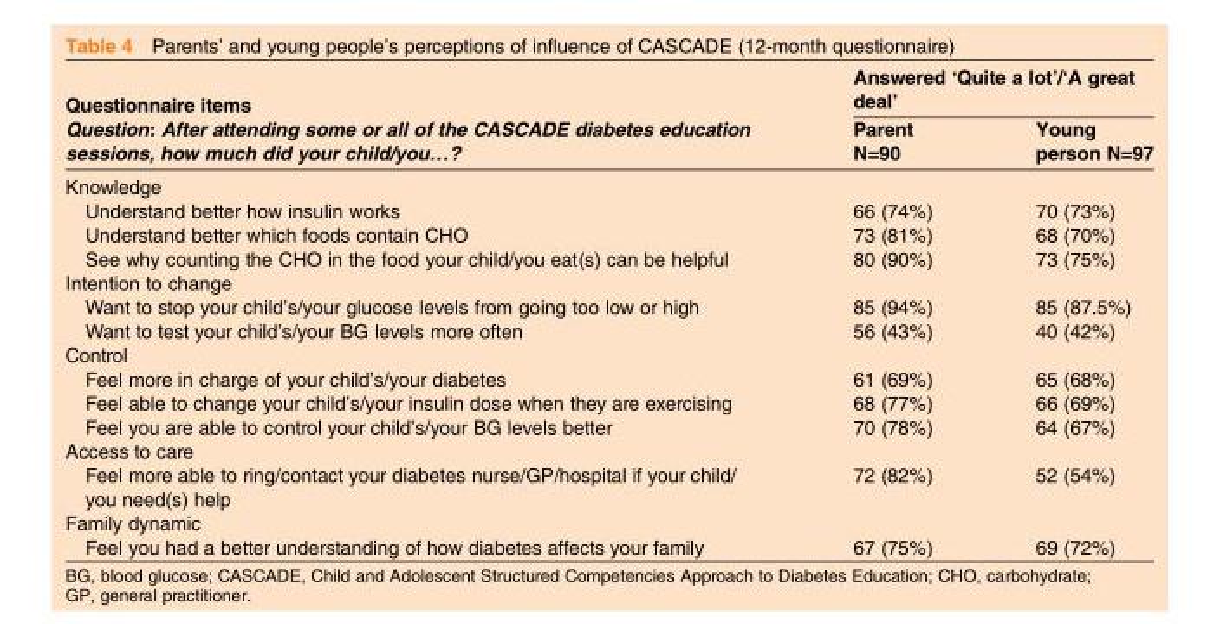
<table><thead><tr><td rowspan="2">Questionnaire items Question: After attending some or all of the CASCADE diabetes education sessions, how much did your child/you…?</td><td colspan="2">Answered ‘Quite a lot’/‘A great deal’</td></tr><tr><td>Parent N=90</td><td>Young person N=97</td></tr></thead><tbody><tr><td colspan="3">Knowledge</td></tr><tr><td>Understand better how insulin works</td><td>66 (74%)</td><td>70 (73%)</td></tr><tr><td>Understand better which foods contain CHO</td><td>73 (81%)</td><td>68 (70%)</td></tr><tr><td>See why counting the CHO in the food your child/you eat(s) can be helpful</td><td>80 (90%)</td><td>73 (75%)</td></tr><tr><td colspan="3">Intention to change</td></tr><tr><td>Want to stop your child’s/your glucose levels from going too low or high</td><td>85 (94%)</td><td>85 (87.5%)</td></tr><tr><td>Want to test your child’s/your BG levels more often</td><td>56 (43%)</td><td>40 (42%)</td></tr><tr><td colspan="3">Control</td></tr><tr><td>Feel more in charge of your child’s/your diabetes</td><td>61 (69%)</td><td>65 (68%)</td></tr><tr><td>Feel able to change your child’s/your insulin dose when they are exercising</td><td>68 (77%)</td><td>66 (69%)</td></tr><tr><td>Feel you are able to control your child’s/your BG levels better</td><td>70 (78%)</td><td>64 (67%)</td></tr><tr><td colspan="3">Access to care</td></tr><tr><td>Feel more able to ring/contact your diabetes nurse/GP/hospital if your child/ you need(s) help</td><td>72 (82%)</td><td>52 (54%)</td></tr><tr><td colspan="3">Family dynamic</td></tr><tr><td>Feel you had a better understanding of how diabetes affects your family</td><td>67 (75%)</td><td>69 (72%)</td></tr></tbody></table>